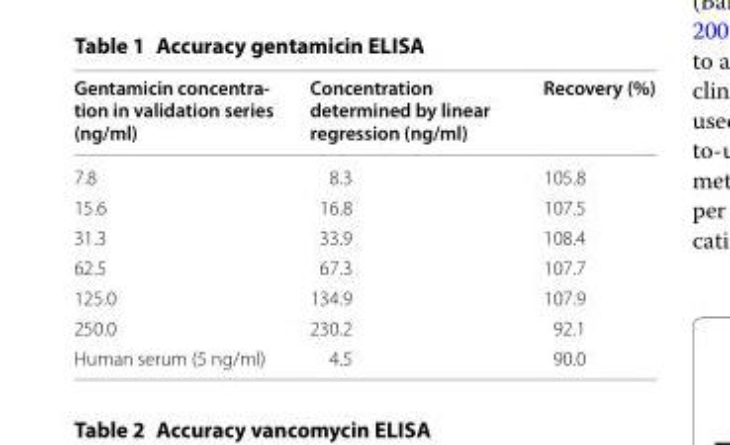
<table><thead><tr><td>Gentamicin concentra‑ tion in validation series (ng/ml)</td><td>Concentration determined by linear regression (ng/ml)</td><td>Recovery (%)</td></tr></thead><tbody><tr><td>7.8</td><td>8.3</td><td>105.8</td></tr><tr><td>15.6</td><td>16.8</td><td>107.5</td></tr><tr><td>31.3</td><td>33.9</td><td>108.4</td></tr><tr><td>62.5</td><td>67.3</td><td>107.7</td></tr><tr><td>125.0</td><td>134.9</td><td>107.9</td></tr><tr><td>250.0</td><td>230.2</td><td>92.1</td></tr><tr><td>Human serum (5 ng/ml)</td><td>4.5</td><td>90.0</td></tr></tbody></table>